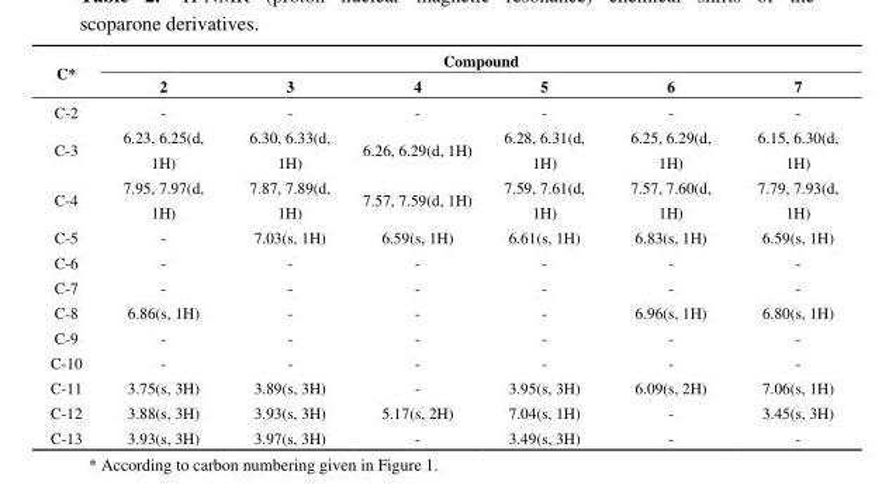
<table><thead><tr><td rowspan="2">C*</td><td colspan="6">Compound</td></tr><tr><td>2</td><td>3</td><td>4</td><td>5</td><td>6</td><td>7</td></tr></thead><tbody><tr><td>C-2</td><td>-</td><td>-</td><td>-</td><td>-</td><td>-</td><td>-</td></tr><tr><td>C-3</td><td>6.23, 6.25(d, 1H)</td><td>6.30, 6.33(d, 1H)</td><td>6.26, 6.29(d, 1H)</td><td>6.28, 6.31(d, 1H)</td><td>6.25, 6.29(d, 1H)</td><td>6.15, 6.30(d, 1H)</td></tr><tr><td>C-4</td><td>7.95, 7.97(d, 1H)</td><td>7.87, 7.89(d, 1H)</td><td>7.57, 7.59(d, 1H)</td><td>7.59, 7.61(d, 1H)</td><td>7.57, 7.60(d, 1H)</td><td>7.79, 7.93(d, 1H)</td></tr><tr><td>C-5</td><td>-</td><td>7.03(s, 1H)</td><td>6.59(s, 1H)</td><td>6.61(s, 1H)</td><td>6.83(s, 1H)</td><td>6.59(s, 1H)</td></tr><tr><td>C-6</td><td>-</td><td>-</td><td>-</td><td>-</td><td>-</td><td>-</td></tr><tr><td>C-7</td><td>-</td><td>-</td><td>-</td><td>-</td><td>-</td><td>-</td></tr><tr><td>C-8</td><td>6.86(s, 1H)</td><td>-</td><td>-</td><td>-</td><td>6.96(s, 1H)</td><td>6.80(s, 1H)</td></tr><tr><td>C-9</td><td>-</td><td>-</td><td>-</td><td>-</td><td>-</td><td>-</td></tr><tr><td>C-10</td><td>-</td><td>-</td><td>-</td><td>-</td><td>-</td><td>-</td></tr><tr><td>C-11</td><td>3.75(s, 3H)</td><td>3.89(s, 3H)</td><td>-</td><td>3.95(s, 3H)</td><td>6.09(s, 2H)</td><td>7.06(s, 1H)</td></tr><tr><td>C-12</td><td>3.88(s, 3H)</td><td>3.93(s, 3H)</td><td>5.17(s, 2H)</td><td>7.04(s, 1H)</td><td>-</td><td>3.45(s, 3H)</td></tr><tr><td>C-13</td><td>3.93(s, 3H)</td><td>3.97(s, 3H)</td><td>-</td><td>3.49(s, 3H)</td><td>-</td><td>-</td></tr></tbody></table>